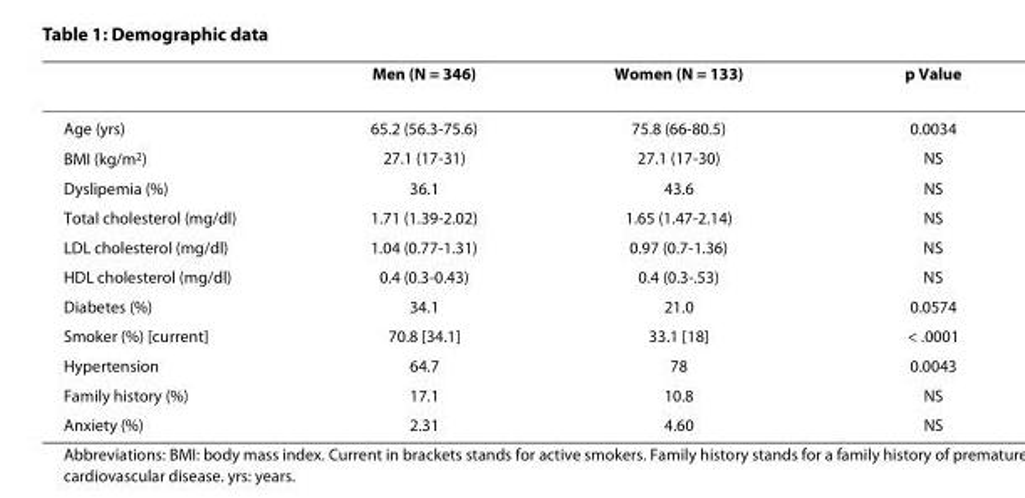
<table><thead><tr><td></td><td>Men (N = 346)</td><td>Women (N = 133)</td><td>p Value</td></tr></thead><tbody><tr><td>Age (yrs)</td><td>65.2 (56.3-75.6)</td><td>75.8 (66-80.5)</td><td>0.0034</td></tr><tr><td>BMI (kg/m<sup>2</sup>)</td><td>27.1 (17-31)</td><td>27.1 (17-30)</td><td>NS</td></tr><tr><td>Dyslipemia (%)</td><td>36.1</td><td>43.6</td><td>NS</td></tr><tr><td>Total cholesterol (mg/dl)</td><td>1.71 (1.39-2.02)</td><td>1.65 (1.47-2.14)</td><td>NS</td></tr><tr><td>LDL cholesterol (mg/dl)</td><td>1.04 (0.77-1.31)</td><td>0.97 (0.7-1.36)</td><td>NS</td></tr><tr><td>HDL cholesterol (mg/dl)</td><td>0.4 (0.3-0.43)</td><td>0.4 (0.3-.53)</td><td>NS</td></tr><tr><td>Diabetes (%)</td><td>34.1</td><td>21.0</td><td>0.0574</td></tr><tr><td>Smoker (%) [current]</td><td>70.8 [34.1]</td><td>33.1 [18]</td><td>&lt; .0001</td></tr><tr><td>Hypertension</td><td>64.7</td><td>78</td><td>0.0043</td></tr><tr><td>Family history (%)</td><td>17.1</td><td>10.8</td><td>NS</td></tr><tr><td>Anxiety (%)</td><td>2.31</td><td>4.60</td><td>NS</td></tr></tbody></table>